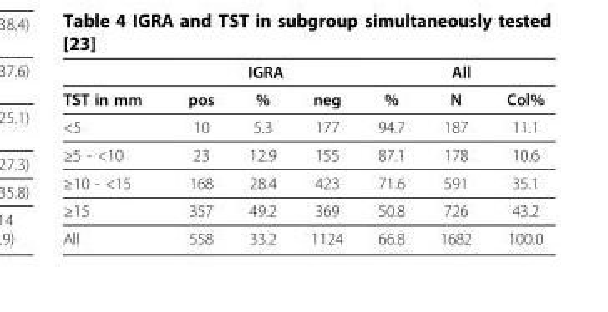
<table><thead><tr><td rowspan="2">TST in mm</td><td colspan="3">IGRA</td><td colspan="3">All</td></tr><tr><td>pos</td><td>%</td><td>neg</td><td>%</td><td>N</td><td>Col%</td></tr></thead><tbody><tr><td>&lt;5</td><td>10</td><td>5.3</td><td>177</td><td>94.7</td><td>187</td><td>11.1</td></tr><tr><td>≥5 - &lt;10</td><td>23</td><td>12.9</td><td>155</td><td>87.1</td><td>178</td><td>10.6</td></tr><tr><td>≥10 - &lt;15</td><td>168</td><td>28.4</td><td>423</td><td>71.6</td><td>591</td><td>35.1</td></tr><tr><td>≥15</td><td>357</td><td>49.2</td><td>369</td><td>50.8</td><td>726</td><td>43.2</td></tr><tr><td>All</td><td>558</td><td>33.2</td><td>1124</td><td>66.8</td><td>1682</td><td>100.0</td></tr></tbody></table>